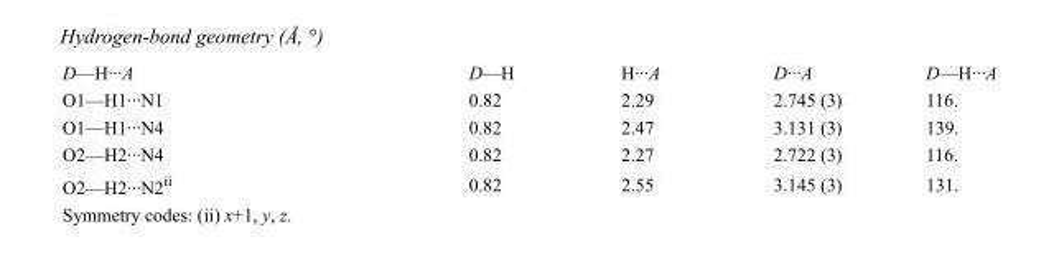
<table><tbody><tr><td>D—H···A</td><td>D—H</td><td>H···A</td><td>D···A</td><td>D—H···A</td></tr><tr><td>O1—H1···N1</td><td>0.82</td><td>2.29</td><td>2.745 (3)</td><td>116.</td></tr><tr><td>O1—H1···N4</td><td>0.82</td><td>2.47</td><td>3.131 (3)</td><td>139.</td></tr><tr><td>O2—H2···N4</td><td>0.82</td><td>2.27</td><td>2.722 (3)</td><td>116.</td></tr><tr><td>O2—H2···N2<sup>ii</sup></td><td>0.82</td><td>2.55</td><td>3.145 (3)</td><td>131.</td></tr></tbody></table>